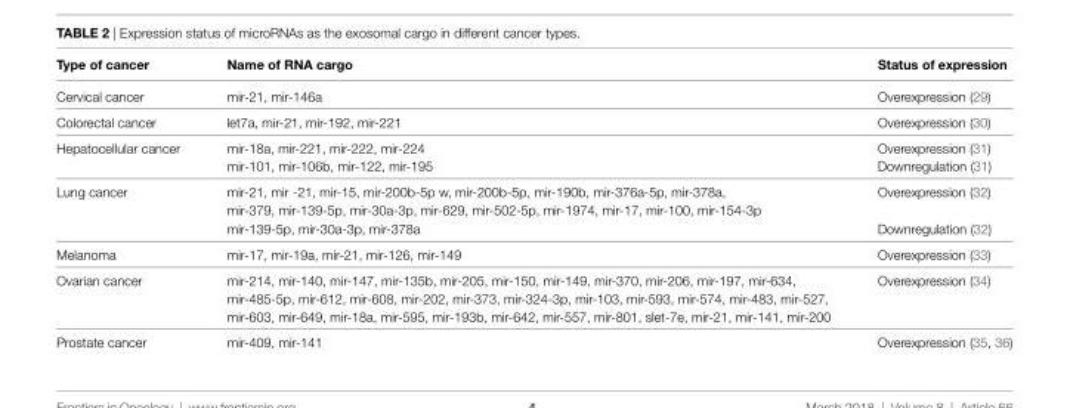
<table><thead><tr><td>Type of cancer</td><td>Name of RNa cargo</td><td>Status of expression</td></tr></thead><tbody><tr><td>Cervical cancer</td><td>mir-21, mir-146a</td><td>Overexpression (29)</td></tr><tr><td>Colorectal cancer</td><td>let7a, mir-21, mir-192, mir-221</td><td>Overexpression (30)</td></tr><tr><td rowspan="2">Hepatocellular cancer</td><td>mir-18a, mir-221, mir-222, mir-224</td><td>Overexpression (31)</td></tr><tr><td>mir-101, mir-106b, mir-122, mir-195</td><td>Downregulation (31)</td></tr><tr><td rowspan="2">Lung cancer</td><td>mir-21, mir -21, mir-15, mir-200b-5p w, mir-200b-5p, mir-190b, mir-376a-5p, mir-378a, mir-379, mir-139-5p, mir-30a-3p, mir-629, mir-502-5p, mir-1974, mir-17, mir-100, mir-154-3p</td><td>Overexpression (32)</td></tr><tr><td>mir-139-5p, mir-30a-3p, mir-378a</td><td>Downregulation (32)</td></tr><tr><td>Melanoma</td><td>mir-17, mir-19a, mir-21, mir-126, mir-149</td><td>Overexpression (33)</td></tr><tr><td>Ovarian cancer</td><td>mir-214, mir-140, mir-147, mir-135b, mir-205, mir-150, mir-149, mir-370, mir-206, mir-197, mir-634, mir-485-5p, mir-612, mir-608, mir-202, mir-373, mir-324-3p, mir-103, mir-593, mir-574, mir-483, mir-527, mir-603, mir-649, mir-18a, mir-595, mir-193b, mir-642, mir-557, mir-801, slet-7e, mir-21, mir-141, mir-200</td><td>Overexpression (34)</td></tr><tr><td>Prostate cancer</td><td>mir-409, mir-141</td><td>Overexpression (35, 36)</td></tr></tbody></table>